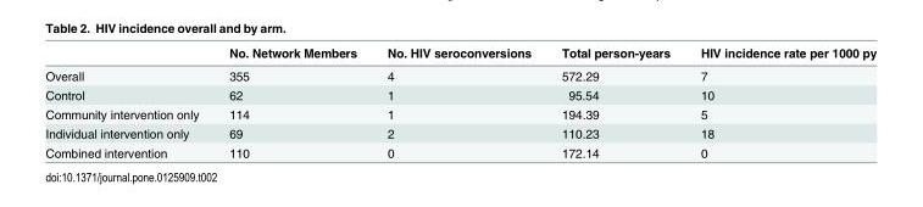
<table><thead><tr><td></td><td>No. Network Members</td><td>No. HIV seroconversions</td><td>Total person-years</td><td>HIV incidence rate per 1000 py</td></tr></thead><tbody><tr><td>Overall</td><td>355</td><td>4</td><td>572.29</td><td>7</td></tr><tr><td>Control</td><td>62</td><td>1</td><td>95.54</td><td>10</td></tr><tr><td>Community intervention only</td><td>114</td><td>1</td><td>194.39</td><td>5</td></tr><tr><td>Individual intervention only</td><td>69</td><td>2</td><td>110.23</td><td>18</td></tr><tr><td>Combined intervention</td><td>110</td><td>0</td><td>172.14</td><td>0</td></tr></tbody></table>